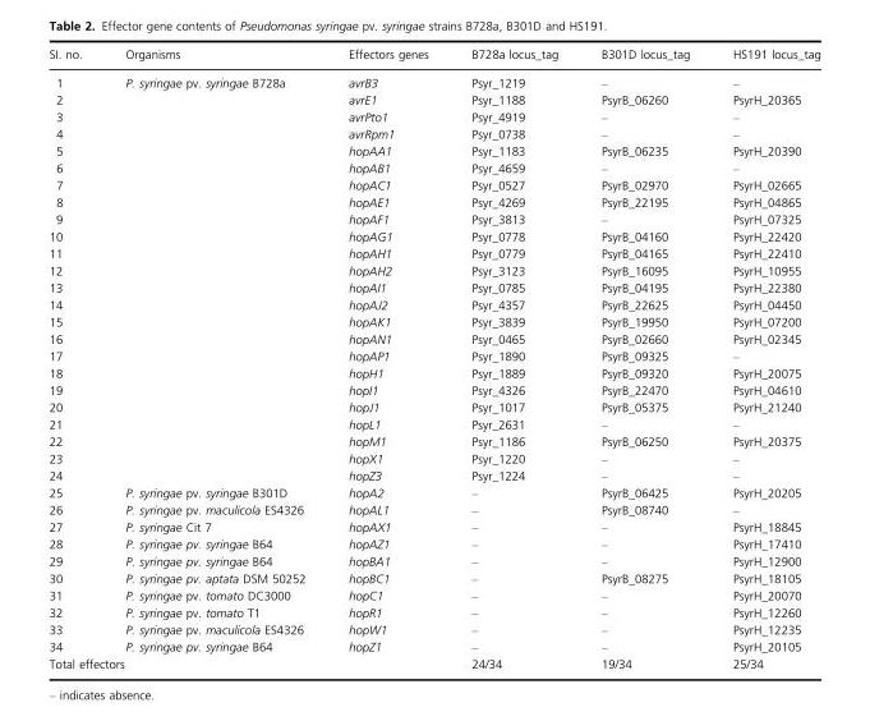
<table><thead><tr><td>SI. no.</td><td>Organisms</td><td>Effectors genes</td><td>B728a locus_tag</td><td>B301D locus_tag</td><td>HS191 locus_tag</td></tr></thead><tbody><tr><td>1</td><td rowspan="24">P. syringae pv. syringae B728a</td><td>avrB3</td><td>Psyr_1219</td><td>–</td><td>–</td></tr><tr><td>2</td><td>avrE1</td><td>Psyr_1188</td><td>PsyrB_06260</td><td>PsyrH_20365</td></tr><tr><td>3</td><td>avrPto1</td><td>Psyr_4919</td><td>–</td><td>–</td></tr><tr><td>4</td><td>avrRpm1</td><td>Psyr_0738</td><td>–</td><td>–</td></tr><tr><td>5</td><td>hopAA1</td><td>Psyr_1183</td><td>PsyrB_06235</td><td>PsyrH_20390</td></tr><tr><td>6</td><td>hopAB1</td><td>Psyr_4659</td><td>–</td><td>–</td></tr><tr><td>7</td><td>hopAC1</td><td>Psyr_0527</td><td>PsyrB_02970</td><td>PsyrH_02665</td></tr><tr><td>8</td><td>hopAE1</td><td>Psyr_4269</td><td>PsyrB_22195</td><td>PsyrH_04865</td></tr><tr><td>9</td><td>hopAF1</td><td>Psyr_3813</td><td>–</td><td>PsyrH_07325</td></tr><tr><td>10</td><td>hopAG1</td><td>Psyr_0778</td><td>PsyrB_04160</td><td>PsyrH_22420</td></tr><tr><td>11</td><td>hopAH1</td><td>Psyr_0779</td><td>PsyrB_04165</td><td>PsyrH_22410</td></tr><tr><td>12</td><td>hopAH2</td><td>Psyr_3123</td><td>PsyrB_16095</td><td>PsyrH_10955</td></tr><tr><td>13</td><td>hopAI1</td><td>Psyr_0785</td><td>PsyrB_04195</td><td>PsyrH_22380</td></tr><tr><td>14</td><td>hopAJ2</td><td>Psyr_4357</td><td>PsyrB_22625</td><td>PsyrH_04450</td></tr><tr><td>15</td><td>hopAK1</td><td>Psyr_3839</td><td>PsyrB_19950</td><td>PsyrH_07200</td></tr><tr><td>16</td><td>hopAN1</td><td>Psyr_0465</td><td>PsyrB_02660</td><td>PsyrH_02345</td></tr><tr><td>17</td><td>hopAP1</td><td>Psyr_1890</td><td>PsyrB_09325</td><td>–</td></tr><tr><td>18</td><td>hopH1</td><td>Psyr_1889</td><td>PsyrB_09320</td><td>PsyrH_20075</td></tr><tr><td>19</td><td>hopI1</td><td>Psyr_4326</td><td>PsyrB_22470</td><td>PsyrH_04610</td></tr><tr><td>20</td><td>hopJ1</td><td>Psyr_1017</td><td>PsyrB_05375</td><td>PsyrH_21240</td></tr><tr><td>21</td><td>hopL1</td><td>Psyr_2631</td><td>–</td><td>–</td></tr><tr><td>22</td><td>hopM1</td><td>Psyr_1186</td><td>PsyrB_06250</td><td>PsyrH_20375</td></tr><tr><td>23</td><td>hopX1</td><td>Psyr_1220</td><td>–</td><td>–</td></tr><tr><td>24</td><td>hopZ3</td><td>Psyr_1224</td><td>–</td><td>–</td></tr><tr><td>25</td><td>P. syringae pv. syringae B301D</td><td>hopA2</td><td>–</td><td>PsyrB_06425</td><td>PsyrH_20205</td></tr><tr><td>26</td><td>P. syringae pv. maculicola ES4326</td><td>hopAL1</td><td>–</td><td>PsyrB_08740</td><td>–</td></tr><tr><td>27</td><td>P. syringae Cit 7</td><td>hopAX1</td><td>–</td><td>–</td><td>PsyrH_18845</td></tr><tr><td>28</td><td>P. syringae pv. syringae B64</td><td>hopAZ1</td><td>–</td><td>–</td><td>PsyrH_17410</td></tr><tr><td>29</td><td>P. syringae pv. syringae B64</td><td>hopBA1</td><td>–</td><td>–</td><td>PsyrH_12900</td></tr><tr><td>30</td><td>P. syringae pv. aptata DSM 50252</td><td>hopBC1</td><td>–</td><td>PsyrB_08275</td><td>PsyrH_18105</td></tr><tr><td>31</td><td>P. syringae pv. tomato DC3000</td><td>hopC1</td><td>–</td><td>–</td><td>PsyrH_20070</td></tr><tr><td>32</td><td>P. syringae pv. tomato T1</td><td>hopR1</td><td>–</td><td>–</td><td>PsyrH_12260</td></tr><tr><td>33</td><td>P. syringae pv. maculicola ES4326</td><td>hopW1</td><td>–</td><td>–</td><td>PsyrH_12235</td></tr><tr><td>34</td><td>P. syringae pv. syringae B64</td><td>hopZ1</td><td>–</td><td>–</td><td>PsyrH_20105</td></tr><tr><td colspan="3">Total effectors</td><td>24/34</td><td>19/34</td><td>25/34</td></tr></tbody></table>